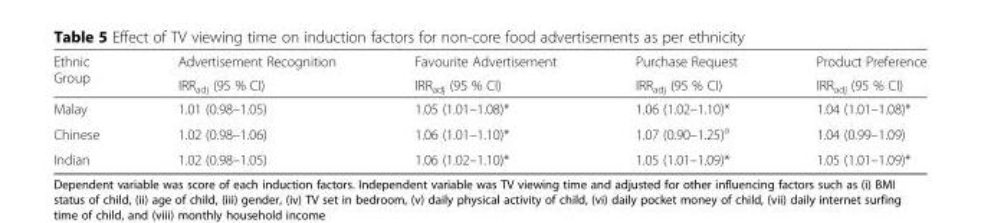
<table><thead><tr><td rowspan="2">Ethnic Group</td><td rowspan="2">Advertisement Recognition IRR<sub>adj</sub> (95 % CI)</td><td rowspan="2">Favourite Advertisement IRR<sub>adj</sub> (95 % CI)</td><td rowspan="2">Purchase Request IRR<sub>adj</sub> (95 % CI)</td><td rowspan="2">Product Preference IRR<sub>adj</sub> (95 % CI)</td></tr><tr></tr></thead><tbody><tr><td>Malay</td><td>1.01 (0.98–1.05)</td><td>1.05 (1.01–1.08)*</td><td>1.06 (1.02–1.10)*</td><td>1.04 (1.01–1.08)*</td></tr><tr><td>Chinese</td><td>1.02 (0.98–1.06)</td><td>1.06 (1.01–1.10)*</td><td>1.07 (0.90–1.25)<sup>a</sup></td><td>1.04 (0.99–1.09)</td></tr><tr><td>Indian</td><td>1.02 (0.98–1.05)</td><td>1.06 (1.02–1.10)*</td><td>1.05 (1.01–1.09)*</td><td>1.05 (1.01–1.09)*</td></tr></tbody></table>